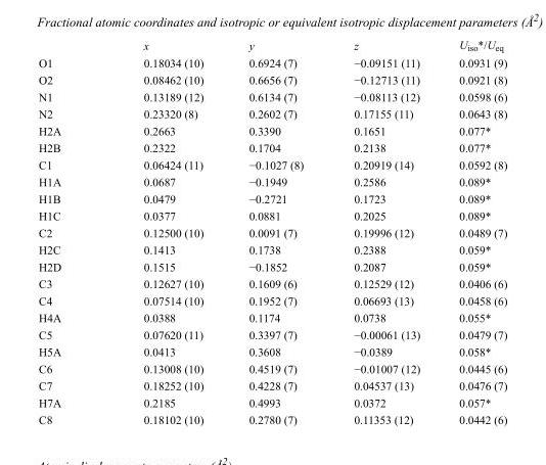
<table><thead><tr><td></td><td>x</td><td>y</td><td>z</td><td>U<sub>iso</sub>*/U<sub>eq</sub></td></tr></thead><tbody><tr><td>O1</td><td>0.18034 (10)</td><td>0.6924 (7)</td><td>−0.09151 (11)</td><td>0.0931 (9)</td></tr><tr><td>O2</td><td>0.08462 (10)</td><td>0.6656 (7)</td><td>−0.12713 (11)</td><td>0.0921 (8)</td></tr><tr><td>N1</td><td>0.13189 (12)</td><td>0.6134 (7)</td><td>−0.08113 (12)</td><td>0.0598 (6)</td></tr><tr><td>N2</td><td>0.23320 (8)</td><td>0.2602 (7)</td><td>0.17155 (11)</td><td>0.0643 (8)</td></tr><tr><td>H2A</td><td>0.2663</td><td>0.3390</td><td>0.1651</td><td>0.077*</td></tr><tr><td>H2B</td><td>0.2322</td><td>0.1704</td><td>0.2138</td><td>0.077*</td></tr><tr><td>C1</td><td>0.06424 (11)</td><td>−0.1027 (8)</td><td>0.20919 (14)</td><td>0.0592 (8)</td></tr><tr><td>H1A</td><td>0.0687</td><td>−0.1949</td><td>0.2586</td><td>0.089*</td></tr><tr><td>H1B</td><td>0.0479</td><td>−0.2721</td><td>0.1723</td><td>0.089*</td></tr><tr><td>H1C</td><td>0.0377</td><td>0.0881</td><td>0.2025</td><td>0.089*</td></tr><tr><td>C2</td><td>0.12500 (10)</td><td>0.0091 (7)</td><td>0.19996 (12)</td><td>0.0489 (7)</td></tr><tr><td>H2C</td><td>0.1413</td><td>0.1738</td><td>0.2388</td><td>0.059*</td></tr><tr><td>H2D</td><td>0.1515</td><td>−0.1852</td><td>0.2087</td><td>0.059*</td></tr><tr><td>C3</td><td>0.12627 (10)</td><td>0.1609 (6)</td><td>0.12529 (12)</td><td>0.0406 (6)</td></tr><tr><td>C4</td><td>0.07514 (10)</td><td>0.1952 (7)</td><td>0.06693 (13)</td><td>0.0458 (6)</td></tr><tr><td>H4A</td><td>0.0388</td><td>0.1174</td><td>0.0738</td><td>0.055*</td></tr><tr><td>C5</td><td>0.07620 (11)</td><td>0.3397 (7)</td><td>−0.00061 (13)</td><td>0.0479 (7)</td></tr><tr><td>H5A</td><td>0.0413</td><td>0.3608</td><td>−0.0389</td><td>0.058*</td></tr><tr><td>C6</td><td>0.13008 (10)</td><td>0.4519 (7)</td><td>−0.01007 (12)</td><td>0.0445 (6)</td></tr><tr><td>C7</td><td>0.18252 (10)</td><td>0.4228 (7)</td><td>0.04537 (13)</td><td>0.0476 (7)</td></tr><tr><td>H7A</td><td>0.2185</td><td>0.4993</td><td>0.0372</td><td>0.057*</td></tr><tr><td>C8</td><td>0.18102 (10)</td><td>0.2780 (7)</td><td>0.11353 (12)</td><td>0.0442 (6)</td></tr></tbody></table>